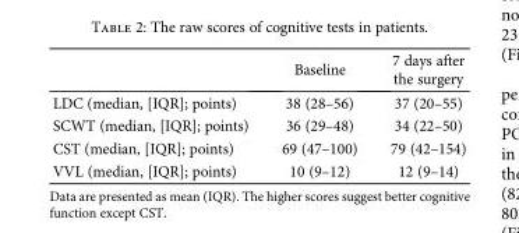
<table><thead><tr><td></td><td>Baseline</td><td>7 days after the surgery</td></tr></thead><tbody><tr><td>LDC (median, [IQR]; points)</td><td>38 (28–56)</td><td>37 (20–55)</td></tr><tr><td>SCWT (median, [IQR]; points)</td><td>36 (29–48)</td><td>34 (22–50)</td></tr><tr><td>CST (median, [IQR]; points)</td><td>69 (47–100)</td><td>79 (42–154)</td></tr><tr><td>VVL (median, [IQR]; points)</td><td>10 (9–12)</td><td>12 (9–14)</td></tr></tbody></table>